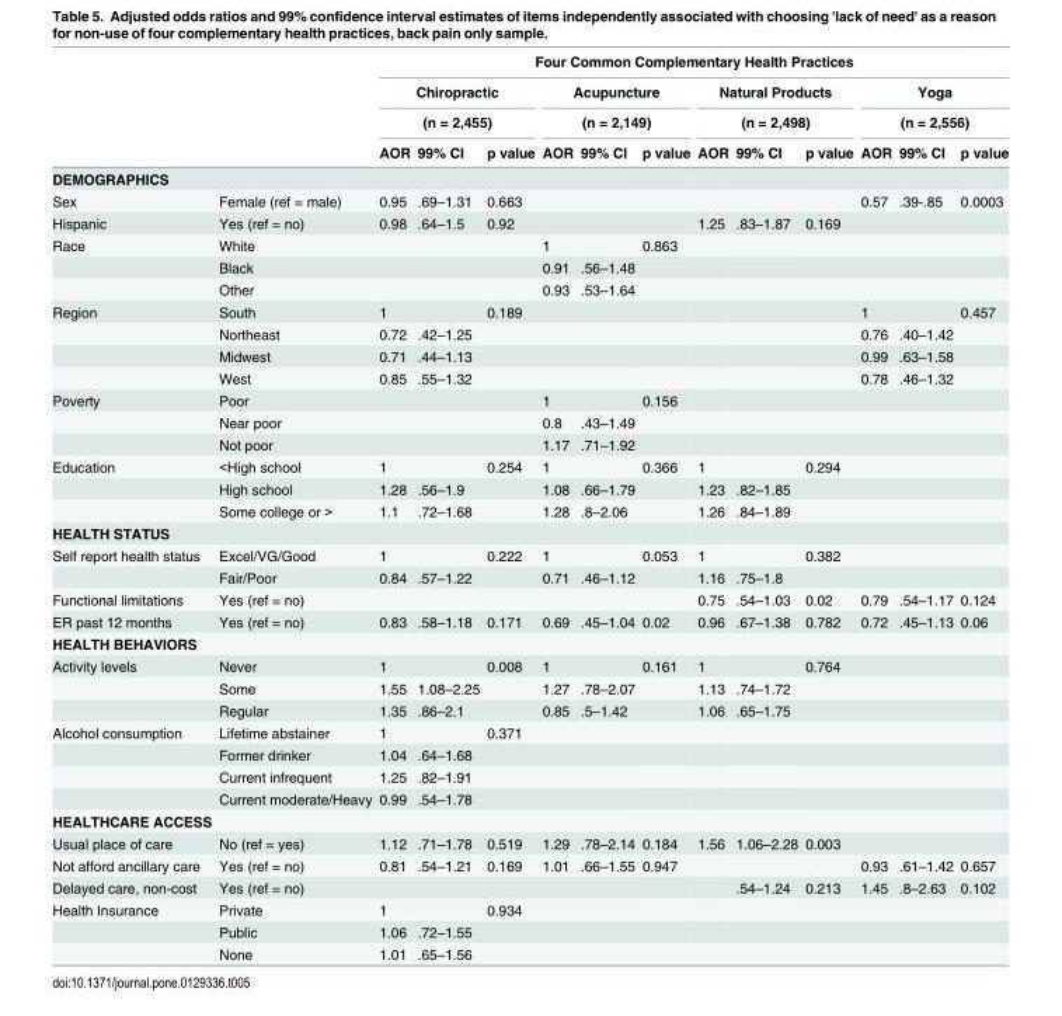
<table><thead><tr><td rowspan="4"></td><td rowspan="4"></td><td colspan="12">Four Common Complementary Health Practices</td></tr><tr><td rowspan="2" colspan="3">Chiropractic (n = 2,455)</td><td rowspan="2" colspan="3">Acupuncture (n = 2,149)</td><td rowspan="2" colspan="3">Natural Products (n = 2,498)</td><td rowspan="2" colspan="3">Yoga (n = 2,556)</td></tr><tr></tr><tr><td>AOR</td><td>99% CI</td><td>p value</td><td>AOR</td><td>99% CI</td><td>p value</td><td>AOR</td><td>99% CI</td><td>p value</td><td>AOR</td><td>99% CI</td><td>p value</td></tr></thead><tbody><tr><td colspan="14">DEMOGRAPHICS</td></tr><tr><td>Sex</td><td>Female (ref = male)</td><td>0.95</td><td>.69–1.31</td><td>0.663</td><td></td><td></td><td></td><td></td><td></td><td></td><td>0.57</td><td>.39-.85</td><td>0.0003</td></tr><tr><td>Hispanic</td><td>Yes (ref = no)</td><td>0.98</td><td>.64–1.5</td><td>0.92</td><td></td><td></td><td></td><td>1.25</td><td>.83–1.87</td><td>0.169</td><td></td><td></td><td></td></tr><tr><td rowspan="3">Race</td><td>White</td><td></td><td></td><td></td><td>1</td><td></td><td>0.863</td><td></td><td></td><td></td><td></td><td></td><td></td></tr><tr><td>Black</td><td></td><td></td><td></td><td>0.91</td><td>.56–1.48</td><td></td><td></td><td></td><td></td><td></td><td></td><td></td></tr><tr><td>Other</td><td></td><td></td><td></td><td>0.93</td><td>.53–1.64</td><td></td><td></td><td></td><td></td><td></td><td></td><td></td></tr><tr><td rowspan="4">Region</td><td>South</td><td>1</td><td></td><td>0.189</td><td></td><td></td><td></td><td></td><td></td><td></td><td>1</td><td></td><td>0.457</td></tr><tr><td>Northeast</td><td>0.72</td><td>.42–1.25</td><td></td><td></td><td></td><td></td><td></td><td></td><td></td><td>0.76</td><td>.40–1.42</td><td></td></tr><tr><td>Midwest</td><td>0.71</td><td>.44–1.13</td><td></td><td></td><td></td><td></td><td></td><td></td><td></td><td>0.99</td><td>.63–1.58</td><td></td></tr><tr><td>West</td><td>0.85</td><td>.55–1.32</td><td></td><td></td><td></td><td></td><td></td><td></td><td></td><td>0.78</td><td>.46–1.32</td><td></td></tr><tr><td rowspan="3">Poverty</td><td>Poor</td><td></td><td></td><td></td><td>1</td><td></td><td>0.156</td><td></td><td></td><td></td><td></td><td></td><td></td></tr><tr><td>Near poor</td><td></td><td></td><td></td><td>0.8</td><td>.43–1.49</td><td></td><td></td><td></td><td></td><td></td><td></td><td></td></tr><tr><td>Not poor</td><td></td><td></td><td></td><td>1.17</td><td>.71–1.92</td><td></td><td></td><td></td><td></td><td></td><td></td><td></td></tr><tr><td rowspan="3">Education</td><td>&lt;High school</td><td>1</td><td></td><td>0.254</td><td>1</td><td></td><td>0.366</td><td>1</td><td></td><td>0.294</td><td></td><td></td><td></td></tr><tr><td>High school</td><td>1.28</td><td>.56–1.9</td><td></td><td>1.08</td><td>.66–1.79</td><td></td><td>1.23</td><td>.82–1.85</td><td></td><td></td><td></td><td></td></tr><tr><td>Some college or &gt;</td><td>1.1</td><td>.72–1.68</td><td></td><td>1.28</td><td>.8–2.06</td><td></td><td>1.26</td><td>.84–1.89</td><td></td><td></td><td></td><td></td></tr><tr><td colspan="14">HEALTH STATUS</td></tr><tr><td rowspan="2">Self report health status</td><td>Excel/VG/Good</td><td>1</td><td></td><td>0.222</td><td>1</td><td></td><td>0.053</td><td>1</td><td></td><td>0.382</td><td></td><td></td><td></td></tr><tr><td>Fair/Poor</td><td>0.84</td><td>.57–1.22</td><td></td><td>0.71</td><td>.46–1.12</td><td></td><td>1.16</td><td>.75–1.8</td><td></td><td></td><td></td><td></td></tr><tr><td>Functional limitations</td><td>Yes (ref = no)</td><td></td><td></td><td></td><td></td><td></td><td></td><td>0.75</td><td>.54–1.03</td><td>0.02</td><td>0.79</td><td>.54–1.17</td><td>0.124</td></tr><tr><td>ER past 12 months</td><td>Yes (ref = no)</td><td>0.83</td><td>.58–1.18</td><td>0.171</td><td>0.69</td><td>.45–1.04</td><td>0.02</td><td>0.96</td><td>.67–1.38</td><td>0.782</td><td>0.72</td><td>.45–1.13</td><td>0.06</td></tr><tr><td colspan="14">HEALTH BEHAVIORS</td></tr><tr><td rowspan="3">Activity levels</td><td>Never</td><td>1</td><td></td><td>0.008</td><td>1</td><td></td><td>0.161</td><td>1</td><td></td><td>0.764</td><td></td><td></td><td></td></tr><tr><td>Some</td><td>1.55</td><td>1.08–2.25</td><td></td><td>1.27</td><td>.78–2.07</td><td></td><td>1.13</td><td>.74–1.72</td><td></td><td></td><td></td><td></td></tr><tr><td>Regular</td><td>1.35</td><td>.86–2.1</td><td></td><td>0.85</td><td>.5–1.42</td><td></td><td>1.06</td><td>.65–1.75</td><td></td><td></td><td></td><td></td></tr><tr><td rowspan="4">Alcohol consumption</td><td>Lifetime abstainer</td><td>1</td><td></td><td>0.371</td><td></td><td></td><td></td><td></td><td></td><td></td><td></td><td></td><td></td></tr><tr><td>Former drinker</td><td>1.04</td><td>.64–1.68</td><td></td><td></td><td></td><td></td><td></td><td></td><td></td><td></td><td></td><td></td></tr><tr><td>Current infrequent</td><td>1.25</td><td>.82–1.91</td><td></td><td></td><td></td><td></td><td></td><td></td><td></td><td></td><td></td><td></td></tr><tr><td>Current moderate/Heavy</td><td>0.99</td><td>.54–1.78</td><td></td><td></td><td></td><td></td><td></td><td></td><td></td><td></td><td></td><td></td></tr><tr><td colspan="14">HEALTHCARE ACCESS</td></tr><tr><td>Usual place of care</td><td>No (ref = yes)</td><td>1.12</td><td>.71–1.78</td><td>0.519</td><td>1.29</td><td>.78–2.14</td><td>0.184</td><td>1.56</td><td>1.06–2.28</td><td>0.003</td><td></td><td></td><td></td></tr><tr><td>Not afford ancillary care</td><td>Yes (ref = no)</td><td>0.81</td><td>.54–1.21</td><td>0.169</td><td>1.01</td><td>.66–1.55</td><td>0.947</td><td></td><td></td><td></td><td>0.93</td><td>.61–1.42</td><td>0.657</td></tr><tr><td>Delayed care, non-cost</td><td>Yes (ref = no)</td><td></td><td></td><td></td><td></td><td></td><td></td><td></td><td>.54–1.24</td><td>0.213</td><td>1.45</td><td>.8–2.63</td><td>0.102</td></tr><tr><td rowspan="3">Health Insurance</td><td>Private</td><td>1</td><td></td><td>0.934</td><td></td><td></td><td></td><td></td><td></td><td></td><td></td><td></td><td></td></tr><tr><td>Public</td><td>1.06</td><td>.72–1.55</td><td></td><td></td><td></td><td></td><td></td><td></td><td></td><td></td><td></td><td></td></tr><tr><td>None</td><td>1.01</td><td>.65–1.56</td><td></td><td></td><td></td><td></td><td></td><td></td><td></td><td></td><td></td><td></td></tr></tbody></table>